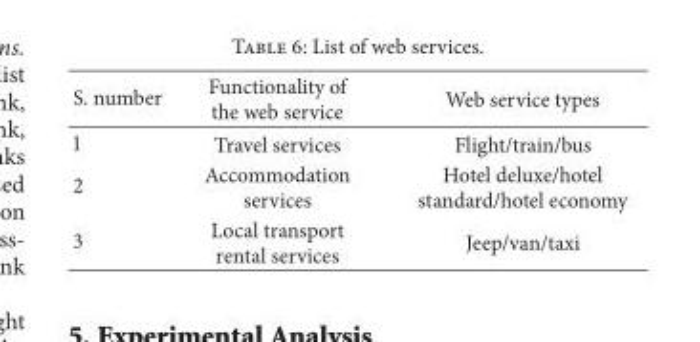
<table><thead><tr><td>S. number</td><td>Functionality of the web service</td><td>Web service types</td></tr></thead><tbody><tr><td>1</td><td>Travel services</td><td>Flight/train/bus</td></tr><tr><td>2</td><td>Accommodation services</td><td>Hotel deluxe/hotel standard/hotel economy</td></tr><tr><td>3</td><td>Local transport rental services</td><td>Jeep/van/taxi</td></tr></tbody></table>